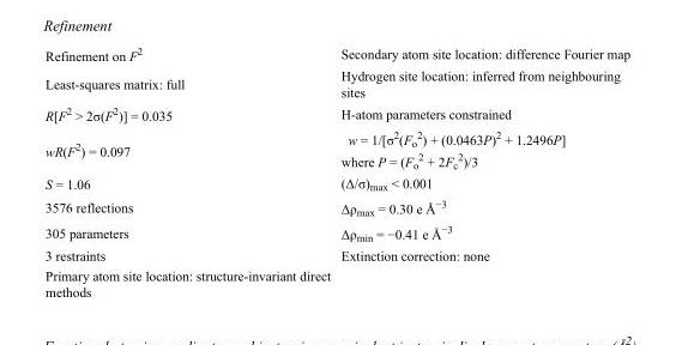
<table><tbody><tr><td>Refinement on F<sup>2</sup></td><td>Secondary atom site location: difference Fourier map</td></tr><tr><td>Least-squares matrix: full</td><td>Hydrogen site location: inferred from neighbouring sites</td></tr><tr><td>R[F<sup>2</sup> &gt; 2σ(F<sup>2</sup>)] = 0.035</td><td>H-atom parameters constrained</td></tr><tr><td>wR(F<sup>2</sup>) = 0.097</td><td>w = 1/[σ<sup>2</sup>(F<sub>o</sub> <sup>2</sup>) + (0.0463P)<sup>2</sup> + 1.2496P] where P = (F<sub>o</sub> <sup>2</sup> + 2F<sub>c</sub> <sup>2</sup>)/3</td></tr><tr><td>S = 1.06</td><td>(Δ/σ)<sub>max</sub> &lt; 0.001</td></tr><tr><td>3576 reflections</td><td>Δρ<sub>max</sub> = 0.30 e Å<sup>−3</sup></td></tr><tr><td>305 parameters</td><td>Δρ<sub>min</sub> = −0.41 e Å<sup>−3</sup></td></tr><tr><td>3 restraints</td><td>Extinction correction: none</td></tr><tr><td>Primary atom site location: structure-invariant direct methods</td><td></td></tr></tbody></table>